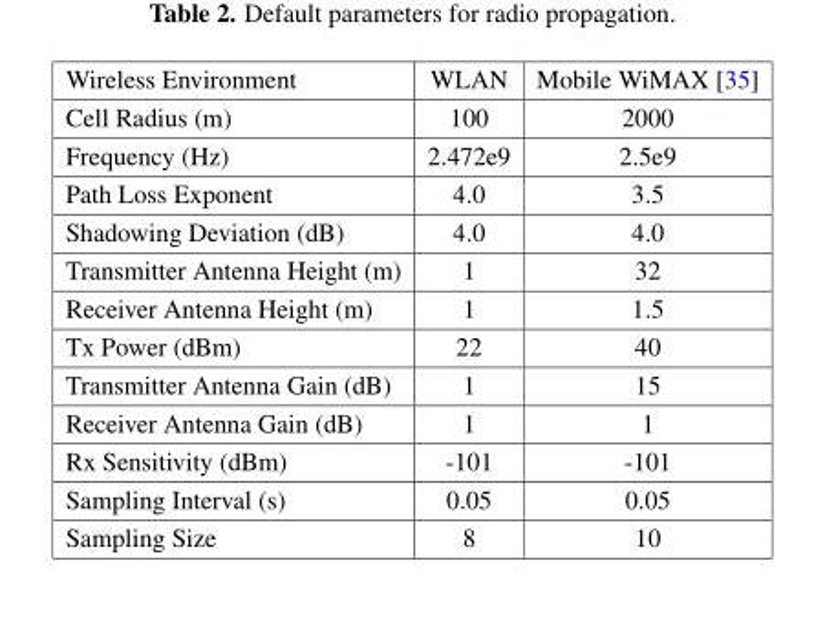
<table><thead><tr><td>Wireless Environment</td><td>WLAN</td><td>Mobile WiMAX [35]</td></tr></thead><tbody><tr><td>Cell Radius (m)</td><td>100</td><td>2000</td></tr><tr><td>Frequency (Hz)</td><td>2.472e9</td><td>2.5e9</td></tr><tr><td>Path Loss Exponent</td><td>4.0</td><td>3.5</td></tr><tr><td>Shadowing Deviation (dB)</td><td>4.0</td><td>4.0</td></tr><tr><td>Transmitter Antenna Height (m)</td><td>1</td><td>32</td></tr><tr><td>Receiver Antenna Height (m)</td><td>1</td><td>1.5</td></tr><tr><td>Tx Power (dBm)</td><td>22</td><td>40</td></tr><tr><td>Transmitter Antenna Gain (dB)</td><td>1</td><td>15</td></tr><tr><td>Receiver Antenna Gain (dB)</td><td>1</td><td>1</td></tr><tr><td>Rx Sensitivity (dBm)</td><td>-101</td><td>-101</td></tr><tr><td>Sampling Interval (s)</td><td>0.05</td><td>0.05</td></tr><tr><td>Sampling Size</td><td>8</td><td>10</td></tr></tbody></table>